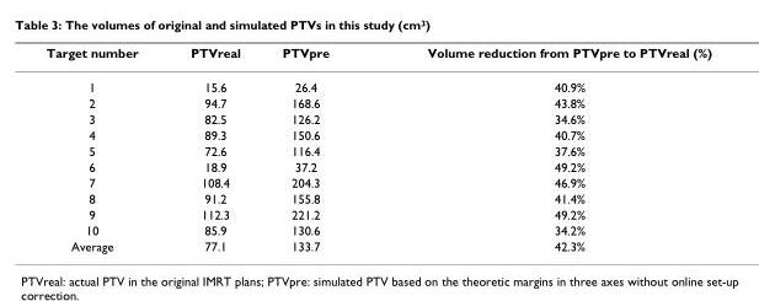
<table><thead><tr><td>Target number</td><td>PTVreal</td><td>PTVpre</td><td>Volume reduction from PTVpre to PTVreal (%)</td></tr></thead><tbody><tr><td>1</td><td>15.6</td><td>26.4</td><td>40.9%</td></tr><tr><td>2</td><td>94.7</td><td>168.6</td><td>43.8%</td></tr><tr><td>3</td><td>82.5</td><td>126.2</td><td>34.6%</td></tr><tr><td>4</td><td>89.3</td><td>150.6</td><td>40.7%</td></tr><tr><td>5</td><td>72.6</td><td>116.4</td><td>37.6%</td></tr><tr><td>6</td><td>18.9</td><td>37.2</td><td>49.2%</td></tr><tr><td>7</td><td>108.4</td><td>204.3</td><td>46.9%</td></tr><tr><td>8</td><td>91.2</td><td>155.8</td><td>41.4%</td></tr><tr><td>9</td><td>112.3</td><td>221.2</td><td>49.2%</td></tr><tr><td>10</td><td>85.9</td><td>130.6</td><td>34.2%</td></tr><tr><td>Average</td><td>77.1</td><td>133.7</td><td>42.3%</td></tr></tbody></table>